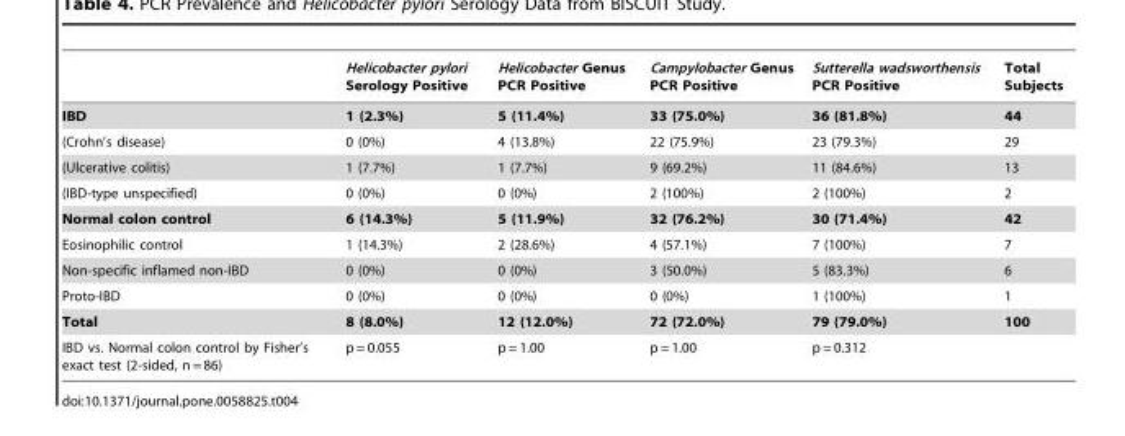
<table><thead><tr><td></td><td>Helicobacter pylori Serology Positive</td><td>Helicobacter Genus PCR Positive</td><td>Campylobacter Genus PCR Positive</td><td>Sutterella wadsworthensis PCR Positive</td><td>Total Subjects</td></tr></thead><tbody><tr><td>IBD</td><td>1 (2.3%)</td><td>5 (11.4%)</td><td>33 (75.0%)</td><td>36 (81.8%)</td><td>44</td></tr><tr><td>(Crohn’s disease)</td><td>0 (0%)</td><td>4 (13.8%)</td><td>22 (75.9%)</td><td>23 (79.3%)</td><td>29</td></tr><tr><td>(Ulcerative colitis)</td><td>1 (7.7%)</td><td>1 (7.7%)</td><td>9 (69.2%)</td><td>11 (84.6%)</td><td>13</td></tr><tr><td>(IBD-type unspecified)</td><td>0 (0%)</td><td>0 (0%)</td><td>2 (100%)</td><td>2 (100%)</td><td>2</td></tr><tr><td>Normal colon control</td><td>6 (14.3%)</td><td>5 (11.9%)</td><td>32 (76.2%)</td><td>30 (71.4%)</td><td>42</td></tr><tr><td>Eosinophilic control</td><td>1 (14.3%)</td><td>2 (28.6%)</td><td>4 (57.1%)</td><td>7 (100%)</td><td>7</td></tr><tr><td>Non-specific inflamed non-IBD</td><td>0 (0%)</td><td>0 (0%)</td><td>3 (50.0%)</td><td>5 (83.3%)</td><td>6</td></tr><tr><td>Proto-IBD</td><td>0 (0%)</td><td>0 (0%)</td><td>0 (0%)</td><td>1 (100%)</td><td>1</td></tr><tr><td>Total</td><td>8 (8.0%)</td><td>12 (12.0%)</td><td>72 (72.0%)</td><td>79 (79.0%)</td><td>100</td></tr><tr><td>IBD vs. Normal colon control by Fisher’s exact test (2-sided, n = 86)</td><td>p = 0.055</td><td>p = 1.00</td><td>p = 1.00</td><td>p = 0.312</td><td></td></tr></tbody></table>